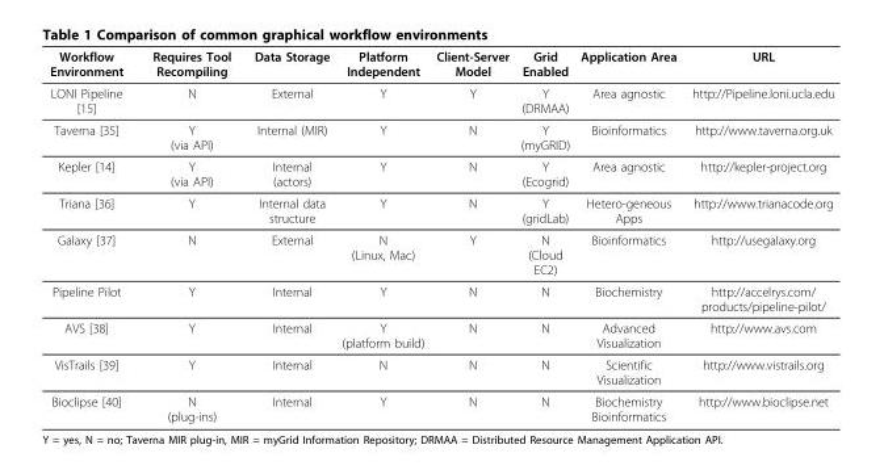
<table><thead><tr><td>Workflow Environment</td><td>Requires Tool Recompiling</td><td>Data Storage</td><td>Platform Independent</td><td>Client-Server Model</td><td>Grid Enabled</td><td>Application Area</td><td>URL</td></tr></thead><tbody><tr><td>LONI Pipeline [15]</td><td>N</td><td>External</td><td>Y</td><td>Y</td><td>Y (DRMAA)</td><td>Area agnostic</td><td>http://Pipeline.loni.ucla.edu</td></tr><tr><td>Taverna [35]</td><td>Y (via API)</td><td>Internal (MIR)</td><td>Y</td><td>N</td><td>Y (myGRID)</td><td>Bioinformatics</td><td>http://www.taverna.org.uk</td></tr><tr><td>Kepler [14]</td><td>Y (via API)</td><td>Internal (actors)</td><td>Y</td><td>N</td><td>Y (Ecogrid)</td><td>Area agnostic</td><td>http://kepler-project.org</td></tr><tr><td>Triana [36]</td><td>Y</td><td>Internal data structure</td><td>Y</td><td>N</td><td>Y (gridLab)</td><td>Hetero-geneous Apps</td><td>http://www.trianacode.org</td></tr><tr><td>Galaxy [37]</td><td>N</td><td>External</td><td>N (Linux, Mac)</td><td>Y</td><td>N (Cloud EC2)</td><td>Bioinformatics</td><td>http://usegalaxy.org</td></tr><tr><td>Pipeline Pilot</td><td>Y</td><td>Internal</td><td>Y</td><td>N</td><td>N</td><td>Biochemistry</td><td>http://accelrys.com/ products/pipeline-pilot/</td></tr><tr><td>AVS [38]</td><td>Y</td><td>Internal</td><td>Y (platform build)</td><td>N</td><td>N</td><td>Advanced Visualization</td><td>http://www.avs.com</td></tr><tr><td>VisTrails [39]</td><td>Y</td><td>Internal</td><td>N</td><td>N</td><td>N</td><td>Scientific Visualization</td><td>http://www.vistrails.org</td></tr><tr><td>Bioclipse [40]</td><td>N (plug-ins)</td><td>Internal</td><td>Y</td><td>N</td><td>N</td><td>Biochemistry Bioinformatics</td><td>http://www.bioclipse.net</td></tr></tbody></table>